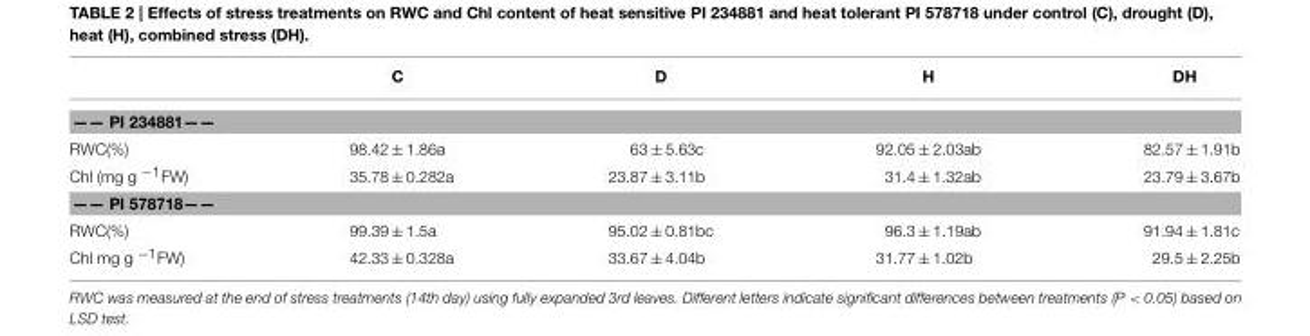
<table><thead><tr><td></td><td>C</td><td>D</td><td>H</td><td>DH</td></tr></thead><tbody><tr><td colspan="5">—— PI 234881——</td></tr><tr><td>RWC(%)</td><td>98.42 ± 1.86a</td><td>63 ± 5.63c</td><td>92.05 ± 2.03ab</td><td>82.57 ± 1.91b</td></tr><tr><td>Chl (mg g <sup>−1</sup>FW)</td><td>35.78 ± 0.282a</td><td>23.87 ± 3.11b</td><td>31.4 ± 1.32ab</td><td>23.79 ± 3.67b</td></tr><tr><td colspan="5">—— PI 578718——</td></tr><tr><td>RWC(%)</td><td>99.39 ± 1.5a</td><td>95.02 ± 0.81bc</td><td>96.3 ± 1.19ab</td><td>91.94 ± 1.81c</td></tr><tr><td>Chl mg g <sup>−1</sup>FW)</td><td>42.33 ± 0.328a</td><td>33.67 ± 4.04b</td><td>31.77 ± 1.02b</td><td>29.5 ± 2.25b</td></tr></tbody></table>